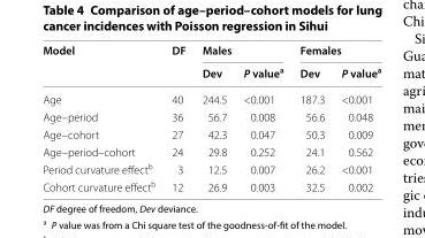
<table><thead><tr><td rowspan="2">Model</td><td rowspan="2">DF</td><td colspan="2">Males</td><td colspan="2">Females</td></tr><tr><td>Dev</td><td>P value<sup>a</sup></td><td>Dev</td><td>P value<sup>a</sup></td></tr></thead><tbody><tr><td>Age</td><td>40</td><td>244.5</td><td>&lt;0.001</td><td>187.3</td><td>&lt;0.001</td></tr><tr><td>Age–period</td><td>36</td><td>56.7</td><td>0.008</td><td>56.6</td><td>0.048</td></tr><tr><td>Age–cohort</td><td>27</td><td>42.3</td><td>0.047</td><td>50.3</td><td>0.009</td></tr><tr><td>Age–period–cohort</td><td>24</td><td>29.8</td><td>0.252</td><td>24.1</td><td>0.562</td></tr><tr><td>Period curvature effect<sup>b</sup></td><td>3</td><td>12.5</td><td>0.007</td><td>26.2</td><td>&lt;0.001</td></tr><tr><td>Cohort curvature effect<sup>b</sup></td><td>12</td><td>26.9</td><td>0.003</td><td>32.5</td><td>0.002</td></tr></tbody></table>